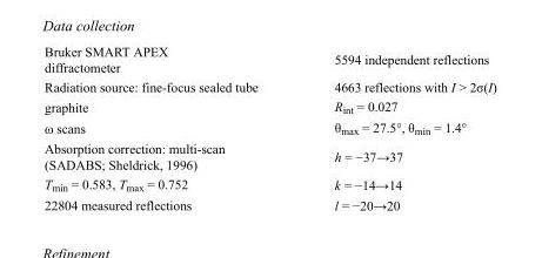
<table><tbody><tr><td>Bruker SMART APEX diffractometer</td><td>5594 independent reflections</td></tr><tr><td>Radiation source: fine-focus sealed tube</td><td>4663 reflections with I &gt; 2σ(I)</td></tr><tr><td>graphite</td><td>R<sub>int</sub> = 0.027</td></tr><tr><td>ω scans</td><td>θ<sub>max</sub> = 27.5°, θ<sub>min</sub> = 1.4°</td></tr><tr><td>Absorption correction: multi-scan (SADABS; Sheldrick, 1996)</td><td>h = −37→37</td></tr><tr><td>T<sub>min</sub> = 0.583, T<sub>max</sub> = 0.752</td><td>k = −14→14</td></tr><tr><td>22804 measured reflections</td><td>l = −20→20</td></tr></tbody></table>